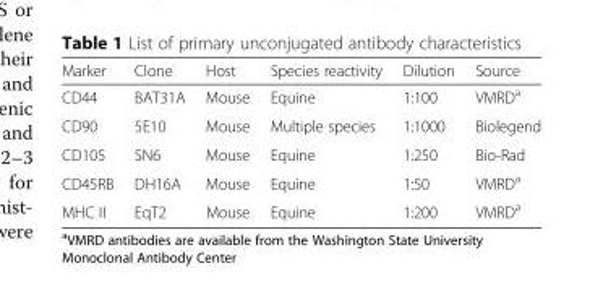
<table><thead><tr><td>Marker</td><td>Clone</td><td>Host</td><td>Species reactivity</td><td>Dilution</td><td>Source</td></tr></thead><tbody><tr><td>CD44</td><td>BAT31A</td><td>Mouse</td><td>Equine</td><td>1:100</td><td>VMRD<sup>a</sup></td></tr><tr><td>CD90</td><td>5E10</td><td>Mouse</td><td>Multiple species</td><td>1:1000</td><td>Biolegend</td></tr><tr><td>CD105</td><td>SN6</td><td>Mouse</td><td>Equine</td><td>1:250</td><td>Bio-Rad</td></tr><tr><td>CD45RB</td><td>DH16A</td><td>Mouse</td><td>Equine</td><td>1:50</td><td>VMRD<sup>a</sup></td></tr><tr><td>MHC II</td><td>EqT2</td><td>Mouse</td><td>Equine</td><td>1:200</td><td>VMRD<sup>a</sup></td></tr></tbody></table>